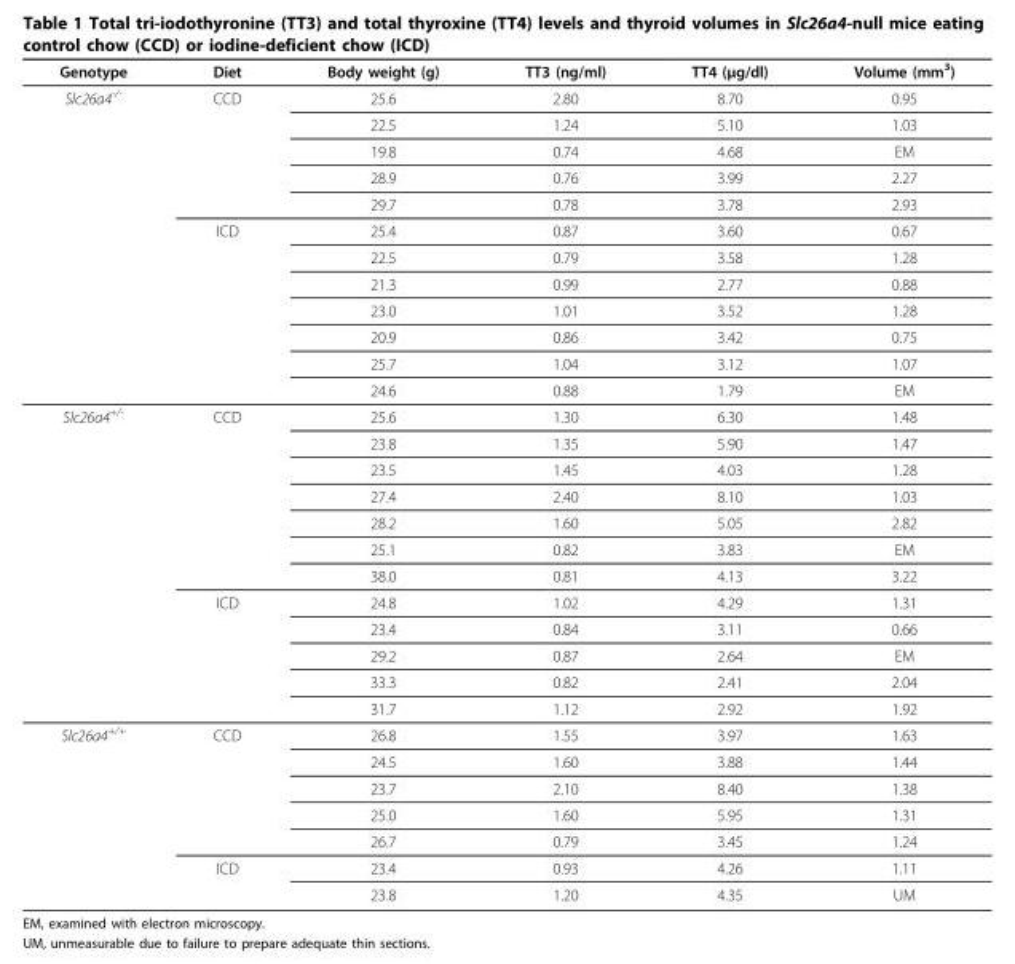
<table><thead><tr><td>Genotype</td><td>Diet</td><td>Body weight (g)</td><td>TT3 (ng/ml)</td><td>TT4 (μg/dl)</td><td>Volume (mm<sup>3</sup>)</td></tr></thead><tbody><tr><td rowspan="12">Slc26a4<sup>-/-</sup></td><td>CCD</td><td>25.6</td><td>2.80</td><td>8.70</td><td>0.95</td></tr><tr><td></td><td>22.5</td><td>1.24</td><td>5.10</td><td>1.03</td></tr><tr><td></td><td>19.8</td><td>0.74</td><td>4.68</td><td>EM</td></tr><tr><td></td><td>28.9</td><td>0.76</td><td>3.99</td><td>2.27</td></tr><tr><td></td><td>29.7</td><td>0.78</td><td>3.78</td><td>2.93</td></tr><tr><td>ICD</td><td>25.4</td><td>0.87</td><td>3.60</td><td>0.67</td></tr><tr><td></td><td>22.5</td><td>0.79</td><td>3.58</td><td>1.28</td></tr><tr><td></td><td>21.3</td><td>0.99</td><td>2.77</td><td>0.88</td></tr><tr><td></td><td>23.0</td><td>1.01</td><td>3.52</td><td>1.28</td></tr><tr><td></td><td>20.9</td><td>0.86</td><td>3.42</td><td>0.75</td></tr><tr><td></td><td>25.7</td><td>1.04</td><td>3.12</td><td>1.07</td></tr><tr><td></td><td>24.6</td><td>0.88</td><td>1.79</td><td>EM</td></tr><tr><td rowspan="12">Slc26a4<sup>+/-</sup></td><td>CCD</td><td>25.6</td><td>1.30</td><td>6.30</td><td>1.48</td></tr><tr><td></td><td>23.8</td><td>1.35</td><td>5.90</td><td>1.47</td></tr><tr><td></td><td>23.5</td><td>1.45</td><td>4.03</td><td>1.28</td></tr><tr><td></td><td>27.4</td><td>2.40</td><td>8.10</td><td>1.03</td></tr><tr><td></td><td>28.2</td><td>1.60</td><td>5.05</td><td>2.82</td></tr><tr><td></td><td>25.1</td><td>0.82</td><td>3.83</td><td>EM</td></tr><tr><td></td><td>38.0</td><td>0.81</td><td>4.13</td><td>3.22</td></tr><tr><td>ICD</td><td>24.8</td><td>1.02</td><td>4.29</td><td>1.31</td></tr><tr><td></td><td>23.4</td><td>0.84</td><td>3.11</td><td>0.66</td></tr><tr><td></td><td>29.2</td><td>0.87</td><td>2.64</td><td>EM</td></tr><tr><td></td><td>33.3</td><td>0.82</td><td>2.41</td><td>2.04</td></tr><tr><td></td><td>31.7</td><td>1.12</td><td>2.92</td><td>1.92</td></tr><tr><td rowspan="7">Slc26a4<sup>+/+</sup></td><td>CCD</td><td>26.8</td><td>1.55</td><td>3.97</td><td>1.63</td></tr><tr><td></td><td>24.5</td><td>1.60</td><td>3.88</td><td>1.44</td></tr><tr><td></td><td>23.7</td><td>2.10</td><td>8.40</td><td>1.38</td></tr><tr><td></td><td>25.0</td><td>1.60</td><td>5.95</td><td>1.31</td></tr><tr><td></td><td>26.7</td><td>0.79</td><td>3.45</td><td>1.24</td></tr><tr><td>ICD</td><td>23.4</td><td>0.93</td><td>4.26</td><td>1.11</td></tr><tr><td></td><td>23.8</td><td>1.20</td><td>4.35</td><td>UM</td></tr></tbody></table>